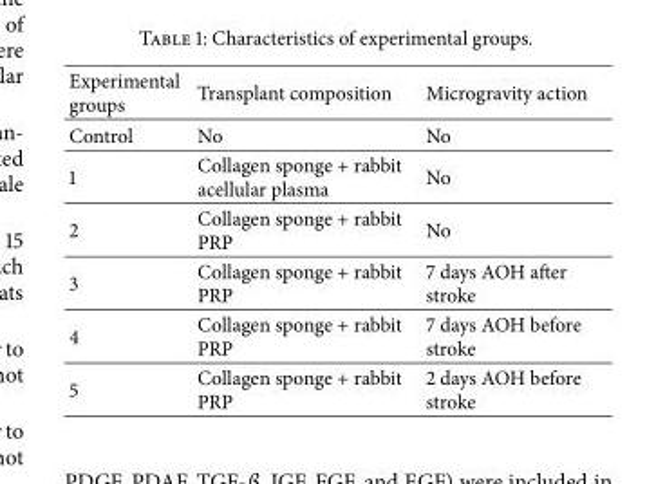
<table><thead><tr><td>Experimental groups</td><td>Transplant composition</td><td>Microgravity action</td></tr></thead><tbody><tr><td>Control</td><td>No</td><td>No</td></tr><tr><td>1</td><td>Collagen sponge + rabbit acellular plasma</td><td>No</td></tr><tr><td>2</td><td>Collagen sponge + rabbit PRP</td><td>No</td></tr><tr><td>3</td><td>Collagen sponge + rabbit PRP</td><td>7 days AOH after stroke</td></tr><tr><td>4</td><td>Collagen sponge + rabbit PRP</td><td>7 days AOH before stroke</td></tr><tr><td>5</td><td>Collagen sponge + rabbit PRP</td><td>2 days AOH before stroke</td></tr></tbody></table>